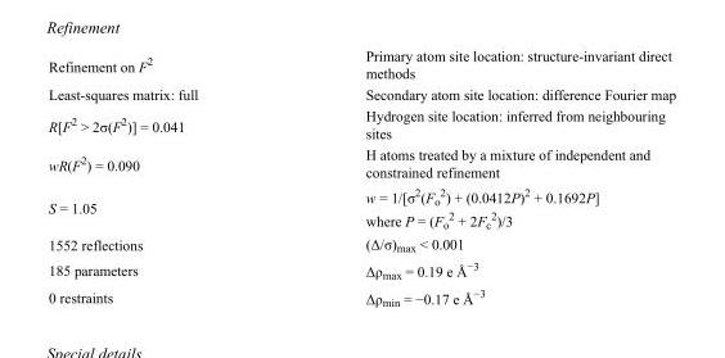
<table><tbody><tr><td>Refinement on F<sup>2</sup></td><td>Primary atom site location: structure-invariant direct methods</td></tr><tr><td>Least-squares matrix: full</td><td>Secondary atom site location: difference Fourier map</td></tr><tr><td>R[F<sup>2</sup> &gt; 2σ(F<sup>2</sup>)] = 0.041</td><td>Hydrogen site location: inferred from neighbouring sites</td></tr><tr><td>wR(F<sup>2</sup>) = 0.090</td><td>H atoms treated by a mixture of independent and constrained refinement</td></tr><tr><td>S = 1.05</td><td>w = 1/[σ<sup>2</sup>(F<sub>o</sub> <sup>2</sup>) + (0.0412P)<sup>2</sup> + 0.1692P] where P = (F<sub>o</sub> <sup>2</sup> + 2F<sub>c</sub> <sup>2</sup>)/3</td></tr><tr><td>1552 reflections</td><td>(Δ/σ)<sub>max</sub> &lt; 0.001</td></tr><tr><td>185 parameters</td><td>Δρ<sub>max</sub> = 0.19 e Å<sup>−3</sup></td></tr><tr><td>0 restraints</td><td>Δρ<sub>min</sub> = −0.17 e Å<sup>−3</sup></td></tr></tbody></table>